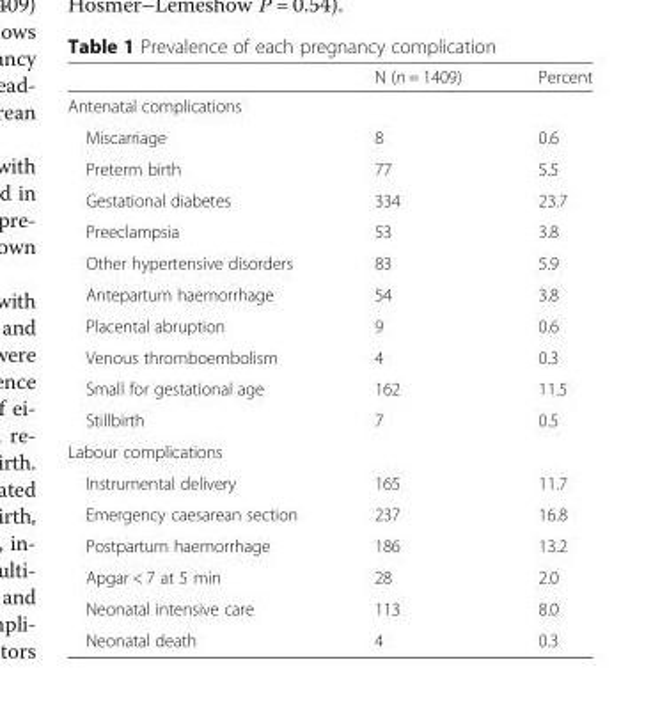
<table><thead><tr><td></td><td>N (n = 1409)</td><td>Percent</td></tr></thead><tbody><tr><td colspan="3">Antenatal complications</td></tr><tr><td>Miscarriage</td><td>8</td><td>0.6</td></tr><tr><td>Preterm birth</td><td>77</td><td>5.5</td></tr><tr><td>Gestational diabetes</td><td>334</td><td>23.7</td></tr><tr><td>Preeclampsia</td><td>53</td><td>3.8</td></tr><tr><td>Other hypertensive disorders</td><td>83</td><td>5.9</td></tr><tr><td>Antepartum haemorrhage</td><td>54</td><td>3.8</td></tr><tr><td>Placental abruption</td><td>9</td><td>0.6</td></tr><tr><td>Venous thromboembolism</td><td>4</td><td>0.3</td></tr><tr><td>Small for gestational age</td><td>162</td><td>11.5</td></tr><tr><td>Stillbirth</td><td>7</td><td>0.5</td></tr><tr><td colspan="3">Labour complications</td></tr><tr><td>Instrumental delivery</td><td>165</td><td>11.7</td></tr><tr><td>Emergency caesarean section</td><td>237</td><td>16.8</td></tr><tr><td>Postpartum haemorrhage</td><td>186</td><td>13.2</td></tr><tr><td>Apgar &lt; 7 at 5 min</td><td>28</td><td>2.0</td></tr><tr><td>Neonatal intensive care</td><td>113</td><td>8.0</td></tr><tr><td>Neonatal death</td><td>4</td><td>0.3</td></tr></tbody></table>